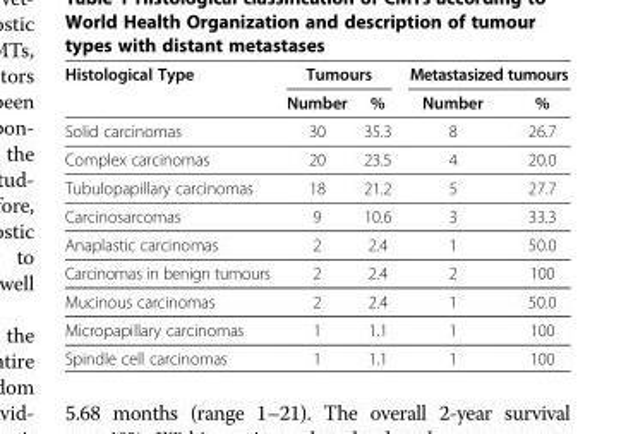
<table><thead><tr><td rowspan="2">Histological Type</td><td colspan="2">Tumours</td><td colspan="2">Metastasized tumours</td></tr><tr><td>Number</td><td>%</td><td>Number</td><td>%</td></tr></thead><tbody><tr><td>Solid carcinomas</td><td>30</td><td>35.3</td><td>8</td><td>26.7</td></tr><tr><td>Complex carcinomas</td><td>20</td><td>23.5</td><td>4</td><td>20.0</td></tr><tr><td>Tubulopapillary carcinomas</td><td>18</td><td>21.2</td><td>5</td><td>27.7</td></tr><tr><td>Carcinosarcomas</td><td>9</td><td>10.6</td><td>3</td><td>33.3</td></tr><tr><td>Anaplastic carcinomas</td><td>2</td><td>2.4</td><td>1</td><td>50.0</td></tr><tr><td>Carcinomas in benign tumours</td><td>2</td><td>2.4</td><td>2</td><td>100</td></tr><tr><td>Mucinous carcinomas</td><td>2</td><td>2.4</td><td>1</td><td>50.0</td></tr><tr><td>Micropapillary carcinomas</td><td>1</td><td>1.1</td><td>1</td><td>100</td></tr><tr><td>Spindle cell carcinomas</td><td>1</td><td>1.1</td><td>1</td><td>100</td></tr></tbody></table>